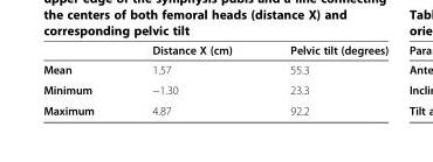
<table><thead><tr><td></td><td>Distance X (cm)</td><td>Pelvic tilt (degrees)</td></tr></thead><tbody><tr><td>Mean</td><td>1.57</td><td>55.3</td></tr><tr><td>Minimum</td><td>−1.30</td><td>23.3</td></tr><tr><td>Maximum</td><td>4.87</td><td>92.2</td></tr></tbody></table>